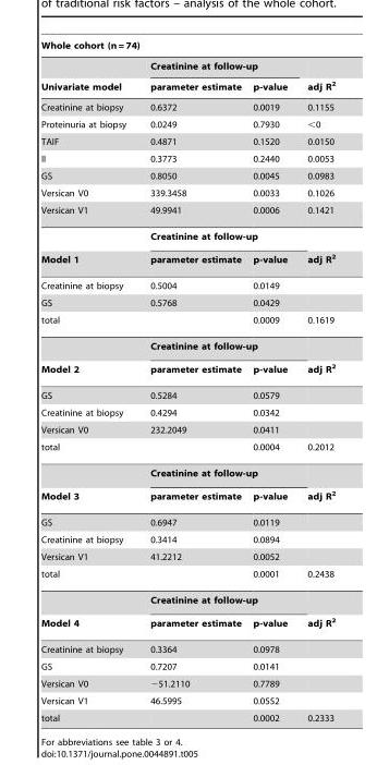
<table><thead><tr><td colspan="4">Whole cohort (n = 74)</td></tr><tr><td rowspan="2">Univariate model</td><td colspan="2">Creatinine at follow-up</td><td rowspan="2">adj R2</td></tr><tr><td>parameter estimate</td><td>p-value</td></tr></thead><tbody><tr><td>Creatinine at biopsy</td><td>0.6372</td><td>0.0019</td><td>0.1155</td></tr><tr><td>Proteinuria at biopsy</td><td>0.0249</td><td>0.7930</td><td>&lt;0</td></tr><tr><td>TAIF</td><td>0.4871</td><td>0.1520</td><td>0.0150</td></tr><tr><td>II</td><td>0.3773</td><td>0.2440</td><td>0.0053</td></tr><tr><td>GS</td><td>0.8050</td><td>0.0045</td><td>0.0983</td></tr><tr><td>Versican V0</td><td>339.3458</td><td>0.0033</td><td>0.1026</td></tr><tr><td rowspan="2">Versican V1</td><td>49.9941</td><td>0.0006</td><td>0.1421</td></tr><tr><td colspan="2">Creatinine at follow-up</td><td></td></tr><tr><td>Model 1</td><td>parameter estimate</td><td>p-value</td><td>adj R<sup>2</sup></td></tr><tr><td>Creatinine at biopsy</td><td>0.5004</td><td>0.0149</td><td></td></tr><tr><td>GS</td><td>0.5768</td><td>0.0429</td><td></td></tr><tr><td rowspan="2">total</td><td></td><td>0.0009</td><td>0.1619</td></tr><tr><td colspan="2">Creatinine at follow-up</td><td></td></tr><tr><td>Model 2</td><td>parameter estimate</td><td>p-value</td><td>adj R<sup>2</sup></td></tr><tr><td>GS</td><td>0.5284</td><td>0.0579</td><td></td></tr><tr><td>Creatinine at biopsy</td><td>0.4294</td><td>0.0342</td><td></td></tr><tr><td>Versican V0</td><td>232.2049</td><td>0.0411</td><td></td></tr><tr><td rowspan="2">total</td><td></td><td>0.0004</td><td>0.2012</td></tr><tr><td colspan="2">Creatinine at follow-up</td><td></td></tr><tr><td>Model 3</td><td>parameter estimate</td><td>p-value</td><td>adj R<sup>2</sup></td></tr><tr><td>GS</td><td>0.6947</td><td>0.0119</td><td></td></tr><tr><td>Creatinine at biopsy</td><td>0.3414</td><td>0.0894</td><td></td></tr><tr><td>Versican V1</td><td>41.2212</td><td>0.0052</td><td></td></tr><tr><td rowspan="2">total</td><td></td><td>0.0001</td><td>0.2438</td></tr><tr><td colspan="2">Creatinine at follow-up</td><td></td></tr><tr><td>Model 4</td><td>parameter estimate</td><td>p-value</td><td>adj R<sup>2</sup></td></tr><tr><td>Creatinine at biopsy</td><td>0.3364</td><td>0.0978</td><td></td></tr><tr><td>GS</td><td>0.7207</td><td>0.0141</td><td></td></tr><tr><td>Versican V0</td><td>−51.2110</td><td>0.7789</td><td></td></tr><tr><td>Versican V1</td><td>46.5995</td><td>0.0552</td><td></td></tr><tr><td>total</td><td></td><td>0.0002</td><td>0.2333</td></tr></tbody></table>